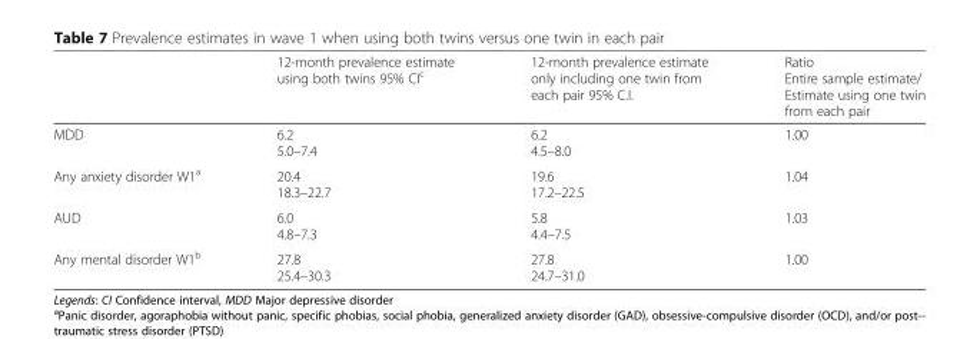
<table><thead><tr><td></td><td>12-month prevalence estimate using both twins 95% CI<sup>c</sup></td><td>12-month prevalence estimate only including one twin from each pair 95% C.I.</td><td>Ratio Entire sample estimate/ Estimate using one twin from each pair</td></tr></thead><tbody><tr><td>MDD</td><td>6.2 5.0–7.4</td><td>6.2 4.5–8.0</td><td>1.00</td></tr><tr><td>Any anxiety disorder W1<sup>a</sup></td><td>20.4 18.3–22.7</td><td>19.6 17.2–22.5</td><td>1.04</td></tr><tr><td>AUD</td><td>6.0 4.8–7.3</td><td>5.8 4.4–7.5</td><td>1.03</td></tr><tr><td>Any mental disorder W1<sup>b</sup></td><td>27.8 25.4–30.3</td><td>27.8 24.7–31.0</td><td>1.00</td></tr></tbody></table>